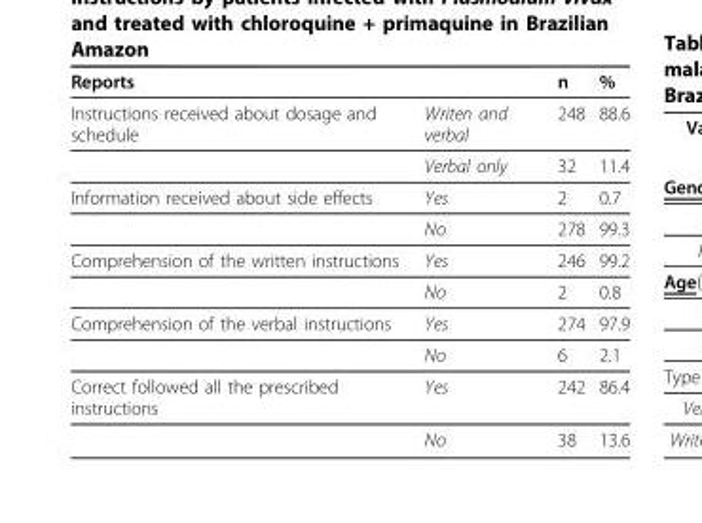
<table><thead><tr><td>Reports</td><td></td><td>n</td><td>%</td></tr></thead><tbody><tr><td rowspan="2">Instructions received about dosage and schedule</td><td>Writen and verbal</td><td>248</td><td>88.6</td></tr><tr><td>Verbal only</td><td>32</td><td>11.4</td></tr><tr><td rowspan="2">Information received about side effects</td><td>Yes</td><td>2</td><td>0.7</td></tr><tr><td>No</td><td>278</td><td>99.3</td></tr><tr><td rowspan="2">Comprehension of the written instructions</td><td>Yes</td><td>246</td><td>99.2</td></tr><tr><td>No</td><td>2</td><td>0.8</td></tr><tr><td rowspan="2">Comprehension of the verbal instructions</td><td>Yes</td><td>274</td><td>97.9</td></tr><tr><td>No</td><td>6</td><td>2.1</td></tr><tr><td rowspan="2">Correct followed all the prescribed instructions</td><td>Yes</td><td>242</td><td>86.4</td></tr><tr><td>No</td><td>38</td><td>13.6</td></tr></tbody></table>